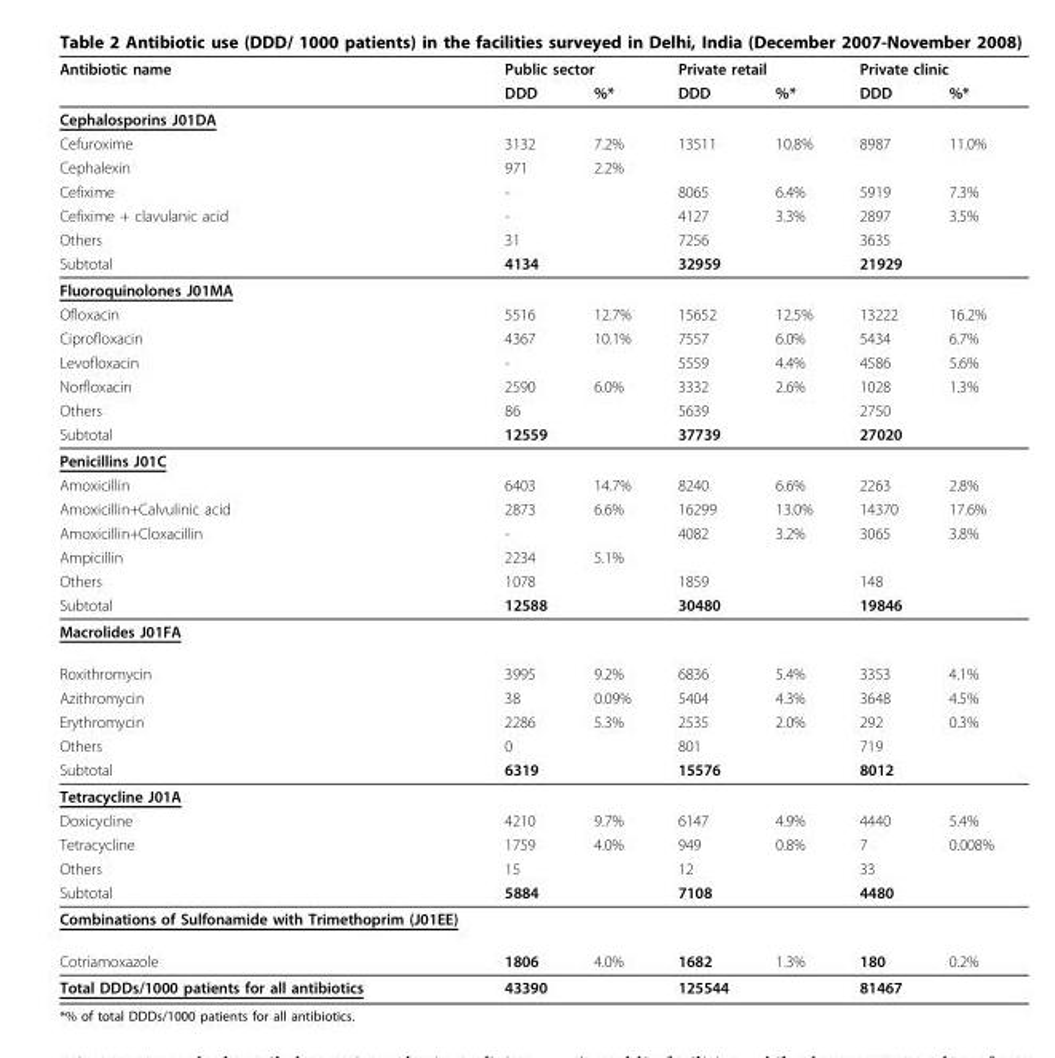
<table><thead><tr><td rowspan="2">Antibiotic name</td><td colspan="2">Public sector</td><td colspan="2">Private retail</td><td colspan="2">Private clinic</td></tr><tr><td>DDD</td><td>%*</td><td>DDD</td><td>%*</td><td>DDD</td><td>%*</td></tr></thead><tbody><tr><td colspan="7">Cephalosporins J01DA</td></tr><tr><td>Cefuroxime</td><td>3132</td><td>7.2%</td><td>13511</td><td>10.8%</td><td>8987</td><td>11.0%</td></tr><tr><td>Cephalexin</td><td>971</td><td>2.2%</td><td></td><td></td><td></td><td></td></tr><tr><td>Cefixime</td><td>-</td><td></td><td>8065</td><td>6.4%</td><td>5919</td><td>7.3%</td></tr><tr><td>Cefixime + clavulanic acid</td><td>-</td><td></td><td>4127</td><td>3.3%</td><td>2897</td><td>3.5%</td></tr><tr><td>Others</td><td>31</td><td></td><td>7256</td><td></td><td>3635</td><td></td></tr><tr><td>Subtotal</td><td>4134</td><td></td><td>32959</td><td></td><td>21929</td><td></td></tr><tr><td colspan="7">Fluoroquinolones J01MA</td></tr><tr><td>Ofloxacin</td><td>5516</td><td>12.7%</td><td>15652</td><td>12.5%</td><td>13222</td><td>16.2%</td></tr><tr><td>Ciprofloxacin</td><td>4367</td><td>10.1%</td><td>7557</td><td>6.0%</td><td>5434</td><td>6.7%</td></tr><tr><td>Levofloxacin</td><td>-</td><td></td><td>5559</td><td>4.4%</td><td>4586</td><td>5.6%</td></tr><tr><td>Norfloxacin</td><td>2590</td><td>6.0%</td><td>3332</td><td>2.6%</td><td>1028</td><td>1.3%</td></tr><tr><td>Others</td><td>86</td><td></td><td>5639</td><td></td><td>2750</td><td></td></tr><tr><td>Subtotal</td><td>12559</td><td></td><td>37739</td><td></td><td>27020</td><td></td></tr><tr><td colspan="7">Penicillins J01C</td></tr><tr><td>Amoxicillin</td><td>6403</td><td>14.7%</td><td>8240</td><td>6.6%</td><td>2263</td><td>2.8%</td></tr><tr><td>Amoxicillin+Calvulinic acid</td><td>2873</td><td>6.6%</td><td>16299</td><td>13.0%</td><td>14370</td><td>17.6%</td></tr><tr><td>Amoxicillin+Cloxacillin</td><td>-</td><td></td><td>4082</td><td>3.2%</td><td>3065</td><td>3.8%</td></tr><tr><td>Ampicillin</td><td>2234</td><td>5.1%</td><td></td><td></td><td></td><td></td></tr><tr><td>Others</td><td>1078</td><td></td><td>1859</td><td></td><td>148</td><td></td></tr><tr><td>Subtotal</td><td>12588</td><td></td><td>30480</td><td></td><td>19846</td><td></td></tr><tr><td colspan="7">Macrolides J01FA</td></tr><tr><td>Roxithromycin</td><td>3995</td><td>9.2%</td><td>6836</td><td>5.4%</td><td>3353</td><td>4.1%</td></tr><tr><td>Azithromycin</td><td>38</td><td>0.09%</td><td>5404</td><td>4.3%</td><td>3648</td><td>4.5%</td></tr><tr><td>Erythromycin</td><td>2286</td><td>5.3%</td><td>2535</td><td>2.0%</td><td>292</td><td>0.3%</td></tr><tr><td>Others</td><td>0</td><td></td><td>801</td><td></td><td>719</td><td></td></tr><tr><td>Subtotal</td><td>6319</td><td></td><td>15576</td><td></td><td>8012</td><td></td></tr><tr><td colspan="7">Tetracycline J01A</td></tr><tr><td>Doxicycline</td><td>4210</td><td>9.7%</td><td>6147</td><td>4.9%</td><td>4440</td><td>5.4%</td></tr><tr><td>Tetracycline</td><td>1759</td><td>4.0%</td><td>949</td><td>0.8%</td><td>7</td><td>0.008%</td></tr><tr><td>Others</td><td>15</td><td></td><td>12</td><td></td><td>33</td><td></td></tr><tr><td>Subtotal</td><td>5884</td><td></td><td>7108</td><td></td><td>4480</td><td></td></tr><tr><td colspan="7">Combinations of Sulfonamide with Trimethoprim (J01EE)</td></tr><tr><td>Cotriamoxazole</td><td>1806</td><td>4.0%</td><td>1682</td><td>1.3%</td><td>180</td><td>0.2%</td></tr><tr><td>Total DDDs/1000 patients for all antibiotics</td><td>43390</td><td></td><td>125544</td><td></td><td>81467</td><td></td></tr></tbody></table>